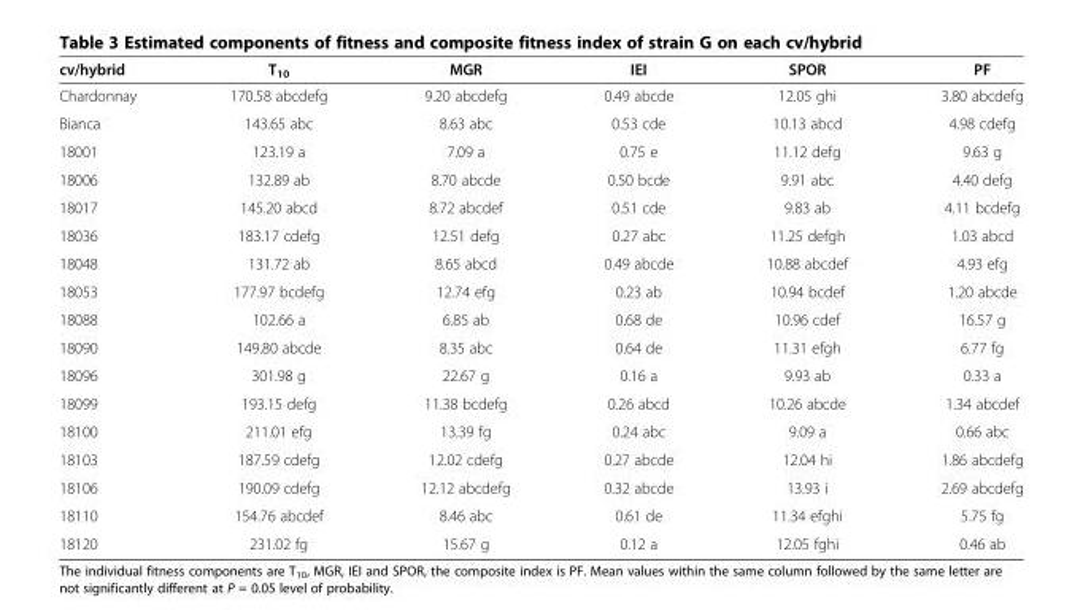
<table><thead><tr><td>cv/hybrid</td><td>T<sub>10</sub></td><td>MGR</td><td>IEI</td><td>SPOR</td><td>PF</td></tr></thead><tbody><tr><td>Chardonnay</td><td>170.58 abcdefg</td><td>9.20 abcdefg</td><td>0.49 abcde</td><td>12.05 ghi</td><td>3.80 abcdefg</td></tr><tr><td>Bianca</td><td>143.65 abc</td><td>8.63 abc</td><td>0.53 cde</td><td>10.13 abcd</td><td>4.98 cdefg</td></tr><tr><td>18001</td><td>123.19 a</td><td>7.09 a</td><td>0.75 e</td><td>11.12 defg</td><td>9.63 g</td></tr><tr><td>18006</td><td>132.89 ab</td><td>8.70 abcde</td><td>0.50 bcde</td><td>9.91 abc</td><td>4.40 defg</td></tr><tr><td>18017</td><td>145.20 abcd</td><td>8.72 abcdef</td><td>0.51 cde</td><td>9.83 ab</td><td>4.11 bcdefg</td></tr><tr><td>18036</td><td>183.17 cdefg</td><td>12.51 defg</td><td>0.27 abc</td><td>11.25 defgh</td><td>1.03 abcd</td></tr><tr><td>18048</td><td>131.72 ab</td><td>8.65 abcd</td><td>0.49 abcde</td><td>10.88 abcdef</td><td>4.93 efg</td></tr><tr><td>18053</td><td>177.97 bcdefg</td><td>12.74 efg</td><td>0.23 ab</td><td>10.94 bcdef</td><td>1.20 abcde</td></tr><tr><td>18088</td><td>102.66 a</td><td>6.85 ab</td><td>0.68 de</td><td>10.96 cdef</td><td>16.57 g</td></tr><tr><td>18090</td><td>149.80 abcde</td><td>8.35 abc</td><td>0.64 de</td><td>11.31 efgh</td><td>6.77 fg</td></tr><tr><td>18096</td><td>301.98 g</td><td>22.67 g</td><td>0.16 a</td><td>9.93 ab</td><td>0.33 a</td></tr><tr><td>18099</td><td>193.15 defg</td><td>11.38 bcdefg</td><td>0.26 abcd</td><td>10.26 abcde</td><td>1.34 abcdef</td></tr><tr><td>18100</td><td>211.01 efg</td><td>13.39 fg</td><td>0.24 abc</td><td>9.09 a</td><td>0.66 abc</td></tr><tr><td>18103</td><td>187.59 cdefg</td><td>12.02 cdefg</td><td>0.27 abcde</td><td>12.04 hi</td><td>1.86 abcdefg</td></tr><tr><td>18106</td><td>190.09 cdefg</td><td>12.12 abcdefg</td><td>0.32 abcde</td><td>13.93 i</td><td>2.69 abcdefg</td></tr><tr><td>18110</td><td>154.76 abcdef</td><td>8.46 abc</td><td>0.61 de</td><td>11.34 efghi</td><td>5.75 fg</td></tr><tr><td>18120</td><td>231.02 fg</td><td>15.67 g</td><td>0.12 a</td><td>12.05 fghi</td><td>0.46 ab</td></tr></tbody></table>